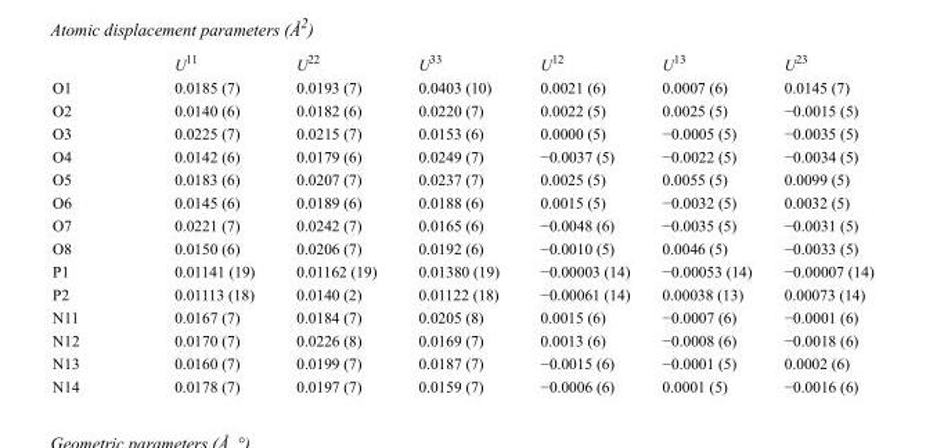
<table><thead><tr><td></td><td>U<sup>11</sup></td><td>U<sup>22</sup></td><td>U<sup>33</sup></td><td>U<sup>12</sup></td><td>U<sup>13</sup></td><td>U<sup>23</sup></td></tr></thead><tbody><tr><td>O1</td><td>0.0185 (7)</td><td>0.0193 (7)</td><td>0.0403 (10)</td><td>0.0021 (6)</td><td>0.0007 (6)</td><td>0.0145 (7)</td></tr><tr><td>O2</td><td>0.0140 (6)</td><td>0.0182 (6)</td><td>0.0220 (7)</td><td>0.0022 (5)</td><td>0.0025 (5)</td><td>−0.0015 (5)</td></tr><tr><td>O3</td><td>0.0225 (7)</td><td>0.0215 (7)</td><td>0.0153 (6)</td><td>0.0000 (5)</td><td>−0.0005 (5)</td><td>−0.0035 (5)</td></tr><tr><td>O4</td><td>0.0142 (6)</td><td>0.0179 (6)</td><td>0.0249 (7)</td><td>−0.0037 (5)</td><td>−0.0022 (5)</td><td>−0.0034 (5)</td></tr><tr><td>O5</td><td>0.0183 (6)</td><td>0.0207 (7)</td><td>0.0237 (7)</td><td>0.0025 (5)</td><td>0.0055 (5)</td><td>0.0099 (5)</td></tr><tr><td>O6</td><td>0.0145 (6)</td><td>0.0189 (6)</td><td>0.0188 (6)</td><td>0.0015 (5)</td><td>−0.0032 (5)</td><td>0.0032 (5)</td></tr><tr><td>O7</td><td>0.0221 (7)</td><td>0.0242 (7)</td><td>0.0165 (6)</td><td>−0.0048 (6)</td><td>−0.0035 (5)</td><td>−0.0031 (5)</td></tr><tr><td>O8</td><td>0.0150 (6)</td><td>0.0206 (7)</td><td>0.0192 (6)</td><td>−0.0010 (5)</td><td>0.0046 (5)</td><td>−0.0033 (5)</td></tr><tr><td>P1</td><td>0.01141 (19)</td><td>0.01162 (19)</td><td>0.01380 (19)</td><td>−0.00003 (14)</td><td>−0.00053 (14)</td><td>−0.00007 (14)</td></tr><tr><td>P2</td><td>0.01113 (18)</td><td>0.0140 (2)</td><td>0.01122 (18)</td><td>−0.00061 (14)</td><td>0.00038 (13)</td><td>0.00073 (14)</td></tr><tr><td>N11</td><td>0.0167 (7)</td><td>0.0184 (7)</td><td>0.0205 (8)</td><td>0.0015 (6)</td><td>−0.0007 (6)</td><td>−0.0001 (6)</td></tr><tr><td>N12</td><td>0.0170 (7)</td><td>0.0226 (8)</td><td>0.0169 (7)</td><td>0.0013 (6)</td><td>−0.0008 (6)</td><td>−0.0018 (6)</td></tr><tr><td>N13</td><td>0.0160 (7)</td><td>0.0199 (7)</td><td>0.0187 (7)</td><td>−0.0015 (6)</td><td>−0.0001 (5)</td><td>0.0002 (6)</td></tr><tr><td>N14</td><td>0.0178 (7)</td><td>0.0197 (7)</td><td>0.0159 (7)</td><td>−0.0006 (6)</td><td>0.0001 (5)</td><td>−0.0016 (6)</td></tr></tbody></table>